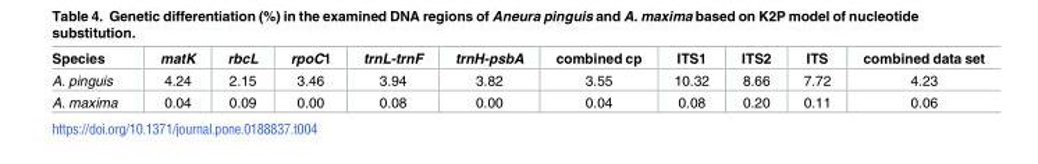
<table><thead><tr><td>Species</td><td>matK</td><td>rbcL</td><td>rpoC1</td><td>trnL-trnF</td><td>trnH-psbA</td><td>combined cp</td><td>ITS1</td><td>ITS2</td><td>ITS</td><td>combined data set</td></tr></thead><tbody><tr><td>A. pinguis</td><td>4.24</td><td>2.15</td><td>3.46</td><td>3.94</td><td>3.82</td><td>3.55</td><td>10.32</td><td>8.66</td><td>7.72</td><td>4.23</td></tr><tr><td>A. maxima</td><td>0.04</td><td>0.09</td><td>0.00</td><td>0.08</td><td>0.00</td><td>0.04</td><td>0.08</td><td>0.20</td><td>0.11</td><td>0.06</td></tr></tbody></table>